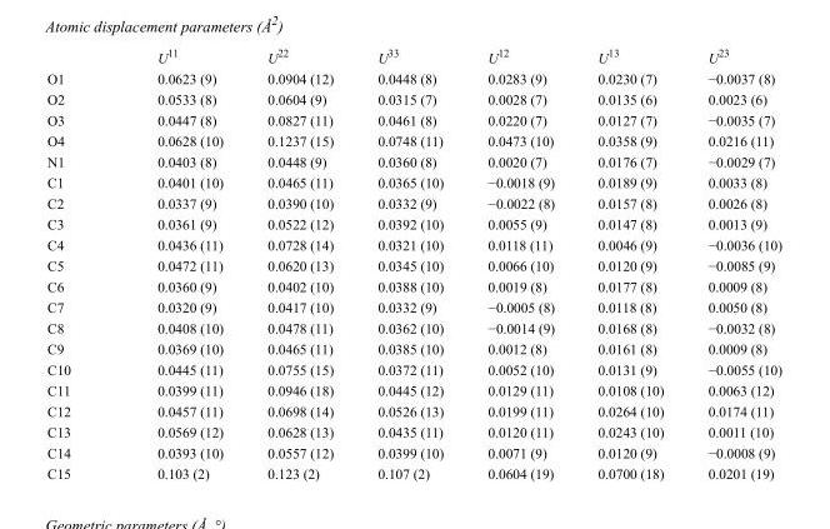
<table><thead><tr><td></td><td>U<sup>11</sup></td><td>U<sup>22</sup></td><td>U<sup>33</sup></td><td>U<sup>12</sup></td><td>U<sup>13</sup></td><td>U<sup>23</sup></td></tr></thead><tbody><tr><td>O1</td><td>0.0623 (9)</td><td>0.0904 (12)</td><td>0.0448 (8)</td><td>0.0283 (9)</td><td>0.0230 (7)</td><td>−0.0037 (8)</td></tr><tr><td>O2</td><td>0.0533 (8)</td><td>0.0604 (9)</td><td>0.0315 (7)</td><td>0.0028 (7)</td><td>0.0135 (6)</td><td>0.0023 (6)</td></tr><tr><td>O3</td><td>0.0447 (8)</td><td>0.0827 (11)</td><td>0.0461 (8)</td><td>0.0220 (7)</td><td>0.0127 (7)</td><td>−0.0035 (7)</td></tr><tr><td>O4</td><td>0.0628 (10)</td><td>0.1237 (15)</td><td>0.0748 (11)</td><td>0.0473 (10)</td><td>0.0358 (9)</td><td>0.0216 (11)</td></tr><tr><td>N1</td><td>0.0403 (8)</td><td>0.0448 (9)</td><td>0.0360 (8)</td><td>0.0020 (7)</td><td>0.0176 (7)</td><td>−0.0029 (7)</td></tr><tr><td>C1</td><td>0.0401 (10)</td><td>0.0465 (11)</td><td>0.0365 (10)</td><td>−0.0018 (9)</td><td>0.0189 (9)</td><td>0.0033 (8)</td></tr><tr><td>C2</td><td>0.0337 (9)</td><td>0.0390 (10)</td><td>0.0332 (9)</td><td>−0.0022 (8)</td><td>0.0157 (8)</td><td>0.0026 (8)</td></tr><tr><td>C3</td><td>0.0361 (9)</td><td>0.0522 (12)</td><td>0.0392 (10)</td><td>0.0055 (9)</td><td>0.0147 (8)</td><td>0.0013 (9)</td></tr><tr><td>C4</td><td>0.0436 (11)</td><td>0.0728 (14)</td><td>0.0321 (10)</td><td>0.0118 (11)</td><td>0.0046 (9)</td><td>−0.0036 (10)</td></tr><tr><td>C5</td><td>0.0472 (11)</td><td>0.0620 (13)</td><td>0.0345 (10)</td><td>0.0066 (10)</td><td>0.0120 (9)</td><td>−0.0085 (9)</td></tr><tr><td>C6</td><td>0.0360 (9)</td><td>0.0402 (10)</td><td>0.0388 (10)</td><td>0.0019 (8)</td><td>0.0177 (8)</td><td>0.0009 (8)</td></tr><tr><td>C7</td><td>0.0320 (9)</td><td>0.0417 (10)</td><td>0.0332 (9)</td><td>−0.0005 (8)</td><td>0.0118 (8)</td><td>0.0050 (8)</td></tr><tr><td>C8</td><td>0.0408 (10)</td><td>0.0478 (11)</td><td>0.0362 (10)</td><td>−0.0014 (9)</td><td>0.0168 (8)</td><td>−0.0032 (8)</td></tr><tr><td>C9</td><td>0.0369 (10)</td><td>0.0465 (11)</td><td>0.0385 (10)</td><td>0.0012 (8)</td><td>0.0161 (8)</td><td>0.0009 (8)</td></tr><tr><td>C10</td><td>0.0445 (11)</td><td>0.0755 (15)</td><td>0.0372 (11)</td><td>0.0052 (10)</td><td>0.0131 (9)</td><td>−0.0055 (10)</td></tr><tr><td>C11</td><td>0.0399 (11)</td><td>0.0946 (18)</td><td>0.0445 (12)</td><td>0.0129 (11)</td><td>0.0108 (10)</td><td>0.0063 (12)</td></tr><tr><td>C12</td><td>0.0457 (11)</td><td>0.0698 (14)</td><td>0.0526 (13)</td><td>0.0199 (11)</td><td>0.0264 (10)</td><td>0.0174 (11)</td></tr><tr><td>C13</td><td>0.0569 (12)</td><td>0.0628 (13)</td><td>0.0435 (11)</td><td>0.0120 (11)</td><td>0.0243 (10)</td><td>0.0011 (10)</td></tr><tr><td>C14</td><td>0.0393 (10)</td><td>0.0557 (12)</td><td>0.0399 (10)</td><td>0.0071 (9)</td><td>0.0120 (9)</td><td>−0.0008 (9)</td></tr><tr><td>C15</td><td>0.103 (2)</td><td>0.123 (2)</td><td>0.107 (2)</td><td>0.0604 (19)</td><td>0.0700 (18)</td><td>0.0201 (19)</td></tr></tbody></table>